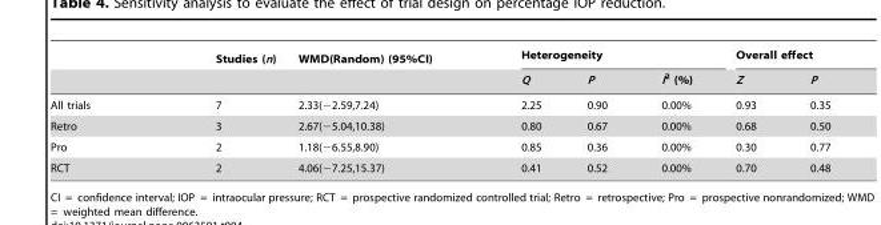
<table><thead><tr><td rowspan="2"></td><td rowspan="2">Studies (n)</td><td rowspan="2">WMD(Random) (95%CI)</td><td colspan="3">Heterogeneity</td><td colspan="2">Overall effect</td></tr><tr><td>Q</td><td>P</td><td>I<sup>2</sup> (%)</td><td>Z</td><td>P</td></tr></thead><tbody><tr><td>All trials</td><td>7</td><td>2.33(−2.59,7.24)</td><td>2.25</td><td>0.90</td><td>0.00%</td><td>0.93</td><td>0.35</td></tr><tr><td>Retro</td><td>3</td><td>2.67(−5.04,10.38)</td><td>0.80</td><td>0.67</td><td>0.00%</td><td>0.68</td><td>0.50</td></tr><tr><td>Pro</td><td>2</td><td>1.18(−6.55,8.90)</td><td>0.85</td><td>0.36</td><td>0.00%</td><td>0.30</td><td>0.77</td></tr><tr><td>RCT</td><td>2</td><td>4.06(−7.25,15.37)</td><td>0.41</td><td>0.52</td><td>0.00%</td><td>0.70</td><td>0.48</td></tr></tbody></table>